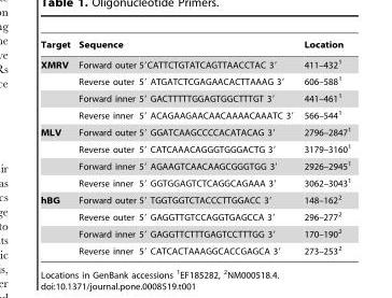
<table><thead><tr><td>Target</td><td>Sequence</td><td></td><td>Location</td></tr></thead><tbody><tr><td rowspan="4">XMRV</td><td>Forward outer</td><td>5′CATTCTGTATCAGTTAACCTAC 3′</td><td>411–432<sup>1</sup></td></tr><tr><td>Reverse outer</td><td>5′ ATGATCTCGAGAACACTTAAAG 3′</td><td>606–588<sup>1</sup></td></tr><tr><td>Forward inner</td><td>5′ GACTTTTTGGAGTGGCTTTGT 3′</td><td>441–461<sup>1</sup></td></tr><tr><td>Reverse inner</td><td>5′ ACAGAAGAACAACAAAACAAATC 3′</td><td>566–544<sup>1</sup></td></tr><tr><td rowspan="4">MLV</td><td>Forward outer</td><td>5′ GGATCAAGCCCCACATACAG 3′</td><td>2796–2847<sup>1</sup></td></tr><tr><td>Reverse outer</td><td>5′ CATCAAACAGGGTGGGACTG 3′</td><td>3179–3160<sup>1</sup></td></tr><tr><td>Forward inner</td><td>5′ AGAAGTCAACAAGCGGGTGG 3′</td><td>2926–2945<sup>1</sup></td></tr><tr><td>Reverse inner</td><td>5′ GGTGGAGTCTCAGGCAGAAA 3′</td><td>3062–3043<sup>1</sup></td></tr><tr><td rowspan="4">hBG</td><td>Forward outer</td><td>5′ TGGTGGTCTACCCTTGGACC 3′</td><td>148–162<sup>2</sup></td></tr><tr><td>Reverse outer</td><td>5′ GAGGTTGTCCAGGTGAGCCA 3′</td><td>296–277<sup>2</sup></td></tr><tr><td>Forward inner</td><td>5′ GAGGTTCTTTGAGTCCTTTGG 3′</td><td>170–190<sup>2</sup></td></tr><tr><td>Reverse inner</td><td>5′ CATCACTAAAGGCACCGAGCA 3′</td><td>273–253<sup>2</sup></td></tr></tbody></table>